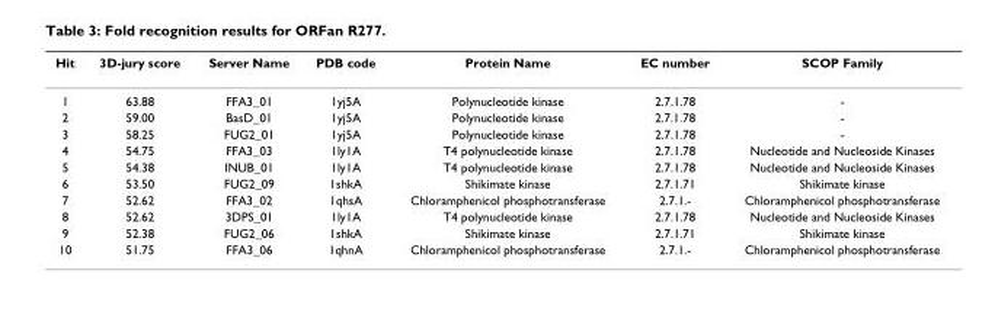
<table><thead><tr><td>Hit</td><td>3D-jury score</td><td>Server Name</td><td>PDB code</td><td>Protein Name</td><td>EC number</td><td>SCOP Family</td></tr></thead><tbody><tr><td>1</td><td>63.88</td><td>FFA3_01</td><td>1yj5A</td><td>Polynucleotide kinase</td><td>2.7.1.78</td><td>-</td></tr><tr><td>2</td><td>59.00</td><td>BasD_01</td><td>1yj5A</td><td>Polynucleotide kinase</td><td>2.7.1.78</td><td>-</td></tr><tr><td>3</td><td>58.25</td><td>FUG2_01</td><td>1yj5A</td><td>Polynucleotide kinase</td><td>2.7.1.78</td><td>-</td></tr><tr><td>4</td><td>54.75</td><td>FFA3_03</td><td>1ly1A</td><td>T4 polynucleotide kinase</td><td>2.7.1.78</td><td>Nucleotide and Nucleoside Kinases</td></tr><tr><td>5</td><td>54.38</td><td>INUB_01</td><td>1ly1A</td><td>T4 polynucleotide kinase</td><td>2.7.1.78</td><td>Nucleotide and Nucleoside Kinases</td></tr><tr><td>6</td><td>53.50</td><td>FUG2_09</td><td>1shkA</td><td>Shikimate kinase</td><td>2.7.1.71</td><td>Shikimate kinase</td></tr><tr><td>7</td><td>52.62</td><td>FFA3_02</td><td>1qhsA</td><td>Chloramphenicol phosphotransferase</td><td>2.7.1.-</td><td>Chloramphenicol phosphotransferase</td></tr><tr><td>8</td><td>52.62</td><td>3DPS_01</td><td>1ly1A</td><td>T4 polynucleotide kinase</td><td>2.7.1.78</td><td>Nucleotide and Nucleoside Kinases</td></tr><tr><td>9</td><td>52.38</td><td>FUG2_06</td><td>1shkA</td><td>Shikimate kinase</td><td>2.7.1.71</td><td>Shikimate kinase</td></tr><tr><td>10</td><td>51.75</td><td>FFA3_06</td><td>1qhnA</td><td>Chloramphenicol phosphotransferase</td><td>2.7.1.-</td><td>Chloramphenicol phosphotransferase</td></tr></tbody></table>